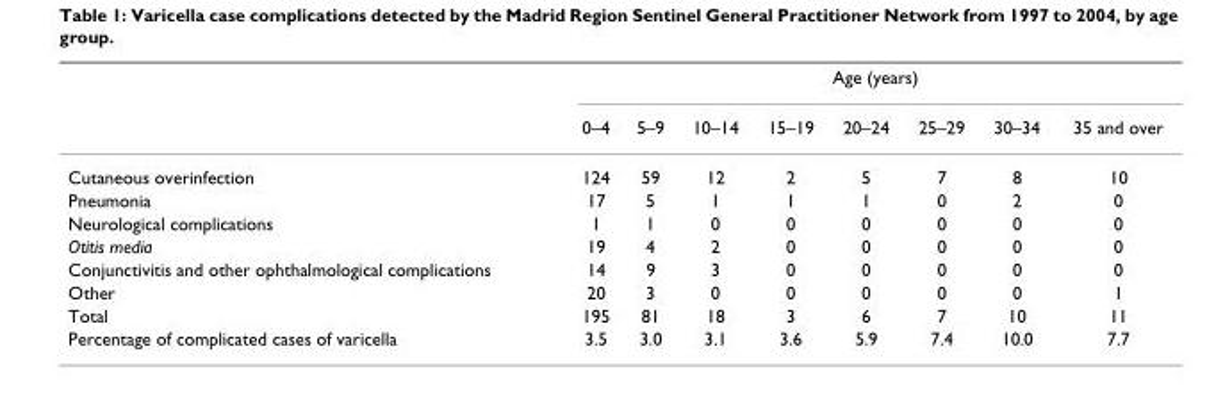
<table><thead><tr><td rowspan="2"></td><td colspan="8">Age (years)</td></tr><tr><td>0–4</td><td>5–9</td><td>10–14</td><td>15–19</td><td>20–24</td><td>25–29</td><td>30–34</td><td>35 and over</td></tr></thead><tbody><tr><td>Cutaneous overinfection</td><td>124</td><td>59</td><td>12</td><td>2</td><td>5</td><td>7</td><td>8</td><td>10</td></tr><tr><td>Pneumonia</td><td>17</td><td>5</td><td>1</td><td>1</td><td>1</td><td>0</td><td>2</td><td>0</td></tr><tr><td>Neurological complications</td><td>1</td><td>1</td><td>0</td><td>0</td><td>0</td><td>0</td><td>0</td><td>0</td></tr><tr><td>Otitis media</td><td>19</td><td>4</td><td>2</td><td>0</td><td>0</td><td>0</td><td>0</td><td>0</td></tr><tr><td>Conjunctivitis and other ophthalmological complications</td><td>14</td><td>9</td><td>3</td><td>0</td><td>0</td><td>0</td><td>0</td><td>0</td></tr><tr><td>Other</td><td>20</td><td>3</td><td>0</td><td>0</td><td>0</td><td>0</td><td>0</td><td>1</td></tr><tr><td>Total</td><td>195</td><td>81</td><td>18</td><td>3</td><td>6</td><td>7</td><td>10</td><td>11</td></tr><tr><td>Percentage of complicated cases of varicella</td><td>3.5</td><td>3.0</td><td>3.1</td><td>3.6</td><td>5.9</td><td>7.4</td><td>10.0</td><td>7.7</td></tr></tbody></table>